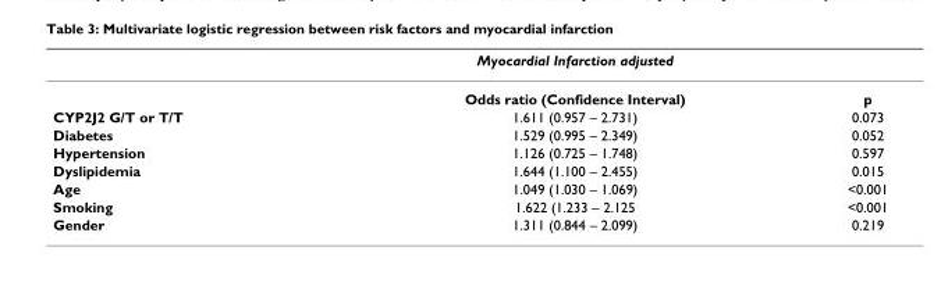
<table><thead><tr><td></td><td>Myocardial Infarction adjusted</td><td></td></tr></thead><tbody><tr><td></td><td>Odds ratio (Confidence Interval)</td><td>p</td></tr><tr><td>CYP2J2 G/T or T/T</td><td>1.611 (0.957 – 2.731)</td><td>0.073</td></tr><tr><td>Diabetes</td><td>1.529 (0.995 – 2.349)</td><td>0.052</td></tr><tr><td>Hypertension</td><td>1.126 (0.725 – 1.748)</td><td>0.597</td></tr><tr><td>Dyslipidemia</td><td>1.644 (1.100 – 2.455)</td><td>0.015</td></tr><tr><td>Age</td><td>1.049 (1.030 – 1.069)</td><td>&lt;0.001</td></tr><tr><td>Smoking</td><td>1.622 (1.233 – 2.125</td><td>&lt;0.001</td></tr><tr><td>Gender</td><td>1.311 (0.844 – 2.099)</td><td>0.219</td></tr></tbody></table>